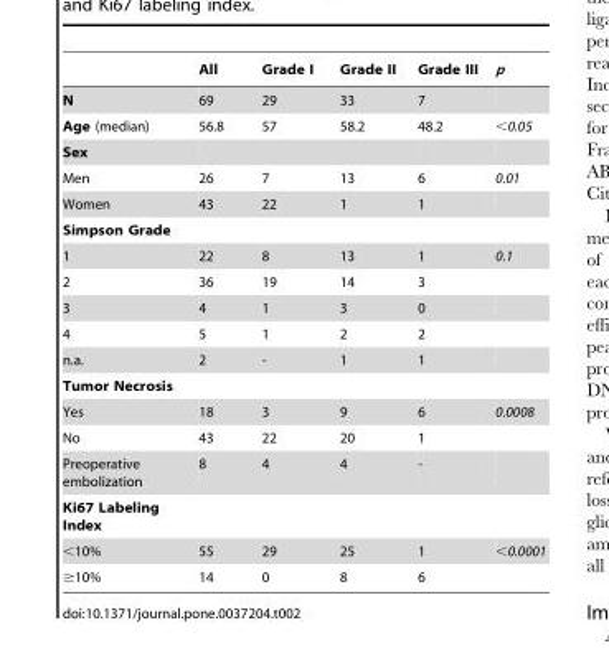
<table><thead><tr><td></td><td>All</td><td>Grade I</td><td>Grade II</td><td>Grade III</td><td>p</td></tr></thead><tbody><tr><td>N</td><td>69</td><td>29</td><td>33</td><td>7</td><td></td></tr><tr><td>Age (median)</td><td>56.8</td><td>57</td><td>58.2</td><td>48.2</td><td>&lt;0.05</td></tr><tr><td colspan="6">Sex</td></tr><tr><td>Men</td><td>26</td><td>7</td><td>13</td><td>6</td><td>0.01</td></tr><tr><td>Women</td><td>43</td><td>22</td><td>1</td><td>1</td><td></td></tr><tr><td colspan="6">Simpson Grade</td></tr><tr><td>1</td><td>22</td><td>8</td><td>13</td><td>1</td><td>0.1</td></tr><tr><td>2</td><td>36</td><td>19</td><td>14</td><td>3</td><td></td></tr><tr><td>3</td><td>4</td><td>1</td><td>3</td><td>0</td><td></td></tr><tr><td>4</td><td>5</td><td>1</td><td>2</td><td>2</td><td></td></tr><tr><td>n.a.</td><td>2</td><td>-</td><td>1</td><td>1</td><td></td></tr><tr><td colspan="6">Tumor Necrosis</td></tr><tr><td>Yes</td><td>18</td><td>3</td><td>9</td><td>6</td><td>0.0008</td></tr><tr><td>No</td><td>43</td><td>22</td><td>20</td><td>1</td><td></td></tr><tr><td>Preoperative embolization</td><td>8</td><td>4</td><td>4</td><td>-</td><td></td></tr><tr><td colspan="6">Ki67 Labeling Index</td></tr><tr><td>&lt;10%</td><td>55</td><td>29</td><td>25</td><td>1</td><td>&lt;0.0001</td></tr><tr><td>≥10%</td><td>14</td><td>0</td><td>8</td><td>6</td><td></td></tr></tbody></table>